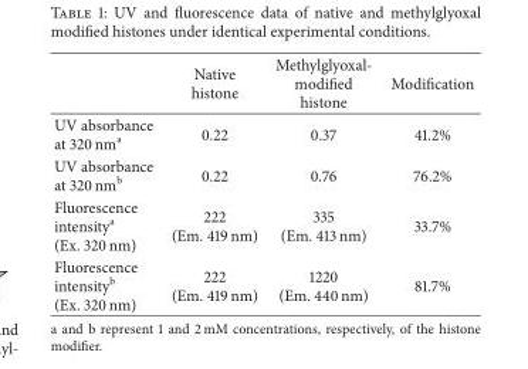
<table><thead><tr><td></td><td>Native histone</td><td>Methylglyoxal- modified histone</td><td>Modification</td></tr></thead><tbody><tr><td>UV absorbance at 320 nm<sup>a</sup></td><td>0.22</td><td>0.37</td><td>41.2%</td></tr><tr><td>UV absorbance at 320 nm<sup>b</sup></td><td>0.22</td><td>0.76</td><td>76.2%</td></tr><tr><td>Fluorescence intensity<sup>a</sup> (Ex. 320 nm)</td><td>222 (Em. 419 nm)</td><td>335 (Em. 413 nm)</td><td>33.7%</td></tr><tr><td>Fluorescence intensity<sup>b</sup> (Ex. 320 nm)</td><td>222 (Em. 419 nm)</td><td>1220 (Em. 440 nm)</td><td>81.7%</td></tr></tbody></table>